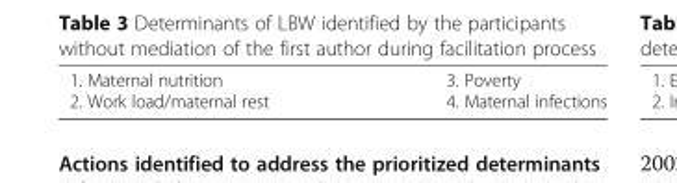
<table><tbody><tr><td>1. Maternal nutrition 2. Work load/maternal rest</td><td>3. Poverty 4. Maternal infections</td></tr></tbody></table>